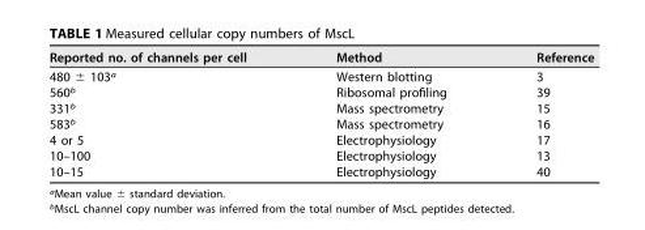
<table><thead><tr><td>Reported no. of channels per cell</td><td>Method</td><td>Reference</td></tr></thead><tbody><tr><td>480 ± 103<sup>a</sup></td><td>Western blotting</td><td>3</td></tr><tr><td>560<sup>b</sup></td><td>Ribosomal profiling</td><td>39</td></tr><tr><td>331<sup>b</sup></td><td>Mass spectrometry</td><td>15</td></tr><tr><td>583<sup>b</sup></td><td>Mass spectrometry</td><td>16</td></tr><tr><td>4 or 5</td><td>Electrophysiology</td><td>17</td></tr><tr><td>10–100</td><td>Electrophysiology</td><td>13</td></tr><tr><td>10–15</td><td>Electrophysiology</td><td>40</td></tr></tbody></table>